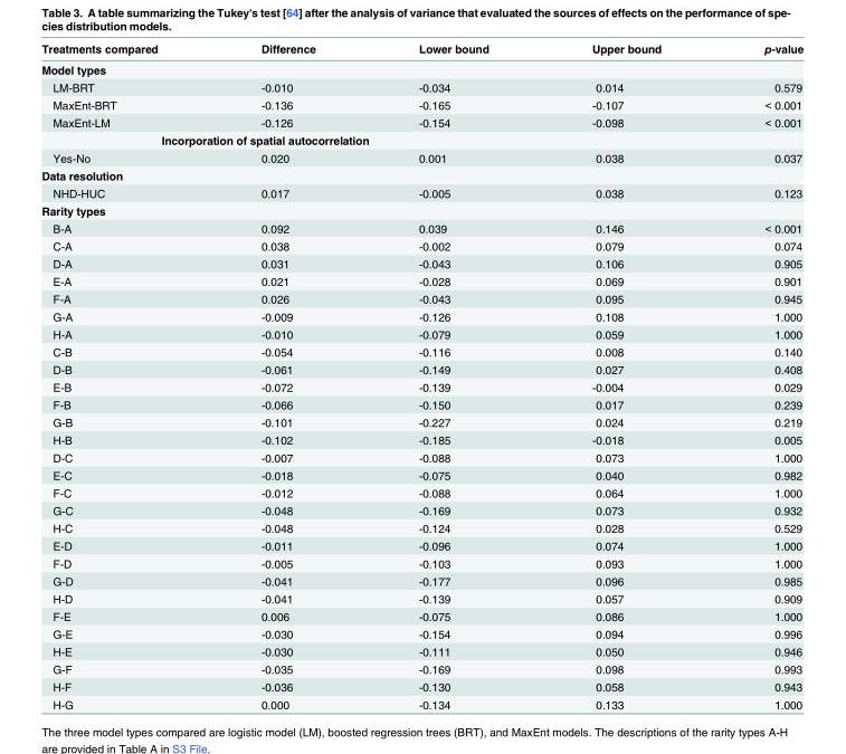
<table><thead><tr><td>Treatments compared</td><td>Difference</td><td>Lower bound</td><td>Upper bound</td><td>p-value</td></tr></thead><tbody><tr><td colspan="5">Model types</td></tr><tr><td>LM-BRT</td><td>-0.010</td><td>-0.034</td><td>0.014</td><td>0.579</td></tr><tr><td>MaxEnt-BRT</td><td>-0.136</td><td>-0.165</td><td>-0.107</td><td>&lt; 0.001</td></tr><tr><td>MaxEnt-LM</td><td>-0.126</td><td>-0.154</td><td>-0.098</td><td>&lt; 0.001</td></tr><tr><td colspan="5">Incorporation of spatial autocorrelation</td></tr><tr><td>Yes-No</td><td>0.020</td><td>0.001</td><td>0.038</td><td>0.037</td></tr><tr><td colspan="5">Data resolution</td></tr><tr><td>NHD-HUC</td><td>0.017</td><td>-0.005</td><td>0.038</td><td>0.123</td></tr><tr><td colspan="5">Rarity types</td></tr><tr><td>B-A</td><td>0.092</td><td>0.039</td><td>0.146</td><td>&lt; 0.001</td></tr><tr><td>C-A</td><td>0.038</td><td>-0.002</td><td>0.079</td><td>0.074</td></tr><tr><td>D-A</td><td>0.031</td><td>-0.043</td><td>0.106</td><td>0.905</td></tr><tr><td>E-A</td><td>0.021</td><td>-0.028</td><td>0.069</td><td>0.901</td></tr><tr><td>F-A</td><td>0.026</td><td>-0.043</td><td>0.095</td><td>0.945</td></tr><tr><td>G-A</td><td>-0.009</td><td>-0.126</td><td>0.108</td><td>1.000</td></tr><tr><td>H-A</td><td>-0.010</td><td>-0.079</td><td>0.059</td><td>1.000</td></tr><tr><td>C-B</td><td>-0.054</td><td>-0.116</td><td>0.008</td><td>0.140</td></tr><tr><td>D-B</td><td>-0.061</td><td>-0.149</td><td>0.027</td><td>0.408</td></tr><tr><td>E-B</td><td>-0.072</td><td>-0.139</td><td>-0.004</td><td>0.029</td></tr><tr><td>F-B</td><td>-0.066</td><td>-0.150</td><td>0.017</td><td>0.239</td></tr><tr><td>G-B</td><td>-0.101</td><td>-0.227</td><td>0.024</td><td>0.219</td></tr><tr><td>H-B</td><td>-0.102</td><td>-0.185</td><td>-0.018</td><td>0.005</td></tr><tr><td>D-C</td><td>-0.007</td><td>-0.088</td><td>0.073</td><td>1.000</td></tr><tr><td>E-C</td><td>-0.018</td><td>-0.075</td><td>0.040</td><td>0.982</td></tr><tr><td>F-C</td><td>-0.012</td><td>-0.088</td><td>0.064</td><td>1.000</td></tr><tr><td>G-C</td><td>-0.048</td><td>-0.169</td><td>0.073</td><td>0.932</td></tr><tr><td>H-C</td><td>-0.048</td><td>-0.124</td><td>0.028</td><td>0.529</td></tr><tr><td>E-D</td><td>-0.011</td><td>-0.096</td><td>0.074</td><td>1.000</td></tr><tr><td>F-D</td><td>-0.005</td><td>-0.103</td><td>0.093</td><td>1.000</td></tr><tr><td>G-D</td><td>-0.041</td><td>-0.177</td><td>0.096</td><td>0.985</td></tr><tr><td>H-D</td><td>-0.041</td><td>-0.139</td><td>0.057</td><td>0.909</td></tr><tr><td>F-E</td><td>0.006</td><td>-0.075</td><td>0.086</td><td>1.000</td></tr><tr><td>G-E</td><td>-0.030</td><td>-0.154</td><td>0.094</td><td>0.996</td></tr><tr><td>H-E</td><td>-0.030</td><td>-0.111</td><td>0.050</td><td>0.946</td></tr><tr><td>G-F</td><td>-0.035</td><td>-0.169</td><td>0.098</td><td>0.993</td></tr><tr><td>H-F</td><td>-0.036</td><td>-0.130</td><td>0.058</td><td>0.943</td></tr><tr><td>H-G</td><td>0.000</td><td>-0.134</td><td>0.133</td><td>1.000</td></tr></tbody></table>